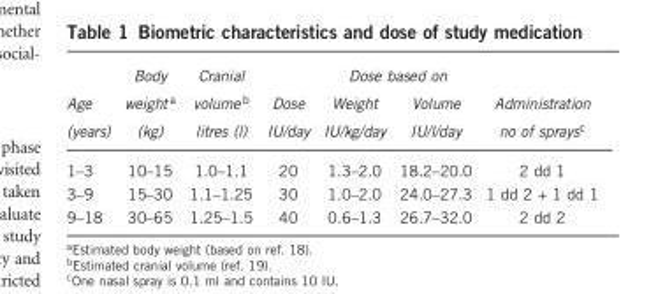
<table><thead><tr><td rowspan="3">Age (years)</td><td rowspan="3">Body weight <sup>a</sup> (kg)</td><td rowspan="3">Cranial volume <sup>b</sup> litres (l)</td><td rowspan="3">Dose IU/day</td><td colspan="2">Dose based on</td><td rowspan="3">Administration no of sprays<sup>c</sup></td></tr><tr><td rowspan="2">Weight IU/kg/day</td><td rowspan="2">Volume IU/l/day</td></tr><tr></tr></thead><tbody><tr><td>1–3</td><td>10–15</td><td>1.0–1.1</td><td>20</td><td>1.3–2.0</td><td>18.2–20.0</td><td>2 dd 1</td></tr><tr><td>3–9</td><td>15–30</td><td>1.1–1.25</td><td>30</td><td>1.0–2.0</td><td>24.0–27.3</td><td>1 dd 2 + 1 dd 1</td></tr><tr><td>9–18</td><td>30–65</td><td>1.25–1.5</td><td>40</td><td>0.6–1.3</td><td>26.7–32.0</td><td>2 dd 2</td></tr></tbody></table>